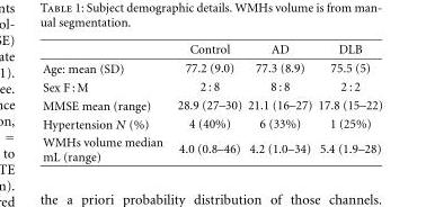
<table><thead><tr><td></td><td>Control</td><td>AD</td><td>DLB</td></tr></thead><tbody><tr><td>Age: mean (SD)</td><td>77.2 (9.0)</td><td>77.3 (8.9)</td><td>75.5 (5)</td></tr><tr><td>Sex F : M</td><td>2 : 8</td><td>8 : 8</td><td>2 : 2</td></tr><tr><td>MMSE mean (range)</td><td>28.9 (27–30)</td><td>21.1 (16–27)</td><td>17.8 (15–22)</td></tr><tr><td>Hypertension N (%)</td><td>4 (40%)</td><td>6 (33%)</td><td>1 (25%)</td></tr><tr><td>WMHs volume median mL (range)</td><td>4.0 (0.8–46)</td><td>4.2 (1.0–34)</td><td>5.4 (1.9–28)</td></tr></tbody></table>